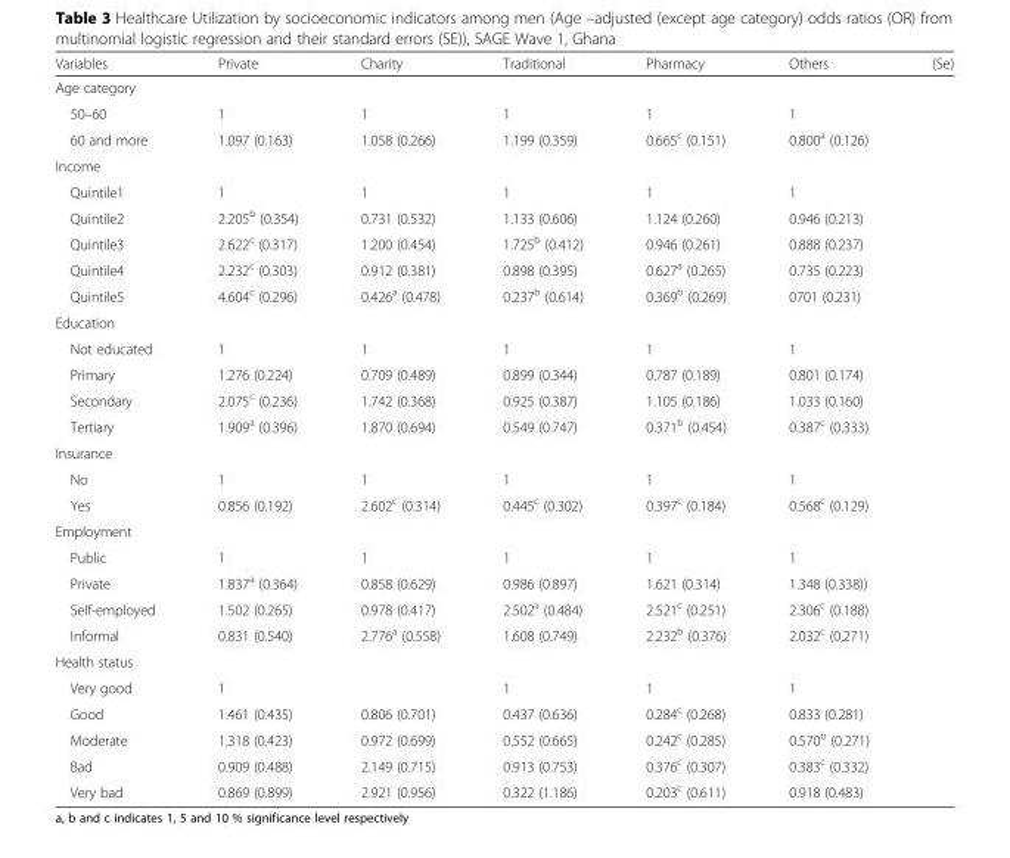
<table><thead><tr><td>Variables</td><td>Private</td><td>Charity</td><td>Traditional</td><td>Pharmacy</td><td>Others</td><td>(Se)</td></tr></thead><tbody><tr><td colspan="7">Age category</td></tr><tr><td>50–60</td><td>1</td><td>1</td><td>1</td><td>1</td><td>1</td><td></td></tr><tr><td>60 and more</td><td>1.097 (0.163)</td><td>1.058 (0.266)</td><td>1.199 (0.359)</td><td>0.665<sup>c</sup> (0.151)</td><td>0.800<sup>a</sup> (0.126)</td><td></td></tr><tr><td colspan="7">Income</td></tr><tr><td>Quintile1</td><td>1</td><td>1</td><td>1</td><td>1</td><td>1</td><td></td></tr><tr><td>Quintile2</td><td>2.205<sup>b</sup> (0.354)</td><td>0.731 (0.532)</td><td>1.133 (0.606)</td><td>1.124 (0.260)</td><td>0.946 (0.213)</td><td></td></tr><tr><td>Quintile3</td><td>2.622<sup>c</sup> (0.317)</td><td>1.200 (0.454)</td><td>1.725<sup>b</sup> (0.412)</td><td>0.946 (0.261)</td><td>0.888 (0.237)</td><td></td></tr><tr><td>Quintile4</td><td>2.232<sup>c</sup> (0.303)</td><td>0.912 (0.381)</td><td>0.898 (0.395)</td><td>0.627<sup>a</sup> (0.265)</td><td>0.735 (0.223)</td><td></td></tr><tr><td>Quintile5</td><td>4.604<sup>c</sup> (0.296)</td><td>0.426<sup>a</sup> (0.478)</td><td>0.237<sup>b</sup> (0.614)</td><td>0.369<sup>b</sup> (0.269)</td><td>0701 (0.231)</td><td></td></tr><tr><td colspan="7">Education</td></tr><tr><td>Not educated</td><td>1</td><td>1</td><td>1</td><td>1</td><td>1</td><td></td></tr><tr><td>Primary</td><td>1.276 (0.224)</td><td>0.709 (0.489)</td><td>0.899 (0.344)</td><td>0.787 (0.189)</td><td>0.801 (0.174)</td><td></td></tr><tr><td>Secondary</td><td>2.075<sup>c</sup> (0.236)</td><td>1.742 (0.368)</td><td>0.925 (0.387)</td><td>1.105 (0.186)</td><td>1.033 (0.160)</td><td></td></tr><tr><td>Tertiary</td><td>1.909<sup>a</sup> (0.396)</td><td>1.870 (0.694)</td><td>0.549 (0.747)</td><td>0.371<sup>b</sup> (0.454)</td><td>0.387<sup>c</sup> (0.333)</td><td></td></tr><tr><td colspan="7">Insurance</td></tr><tr><td>No</td><td>1</td><td>1</td><td>1</td><td>1</td><td>1</td><td></td></tr><tr><td>Yes</td><td>0.856 (0.192)</td><td>2.602<sup>c</sup> (0.314)</td><td>0.445<sup>c</sup> (0.302)</td><td>0.397<sup>c</sup> (0.184)</td><td>0.568<sup>c</sup> (0.129)</td><td></td></tr><tr><td colspan="7">Employment</td></tr><tr><td>Public</td><td>1</td><td>1</td><td>1</td><td>1</td><td>1</td><td></td></tr><tr><td>Private</td><td>1.837<sup>a</sup> (0.364)</td><td>0.858 (0.629)</td><td>0.986 (0.897)</td><td>1.621 (0.314)</td><td>1.348 (0.338))</td><td></td></tr><tr><td>Self-employed</td><td>1.502 (0.265)</td><td>0.978 (0.417)</td><td>2.502<sup>a</sup> (0.484)</td><td>2.521<sup>c</sup> (0.251)</td><td>2.306<sup>c</sup> (0.188)</td><td></td></tr><tr><td>Informal</td><td>0.831 (0.540)</td><td>2.776<sup>a</sup> (0.558)</td><td>1.608 (0.749)</td><td>2.232<sup>b</sup> (0.376)</td><td>2.032<sup>c</sup> (0.271)</td><td></td></tr><tr><td colspan="7">Health status</td></tr><tr><td>Very good</td><td>1</td><td></td><td>1</td><td>1</td><td>1</td><td></td></tr><tr><td>Good</td><td>1.461 (0.435)</td><td>0.806 (0.701)</td><td>0.437 (0.636)</td><td>0.284<sup>c</sup> (0.268)</td><td>0.833 (0.281)</td><td></td></tr><tr><td>Moderate</td><td>1.318 (0.423)</td><td>0.972 (0.699)</td><td>0.552 (0.665)</td><td>0.242<sup>c</sup> (0.285)</td><td>0.570<sup>b</sup> (0.271)</td><td></td></tr><tr><td>Bad</td><td>0.909 (0.488)</td><td>2.149 (0.715)</td><td>0.913 (0.753)</td><td>0.376<sup>c</sup> (0.307)</td><td>0.383<sup>c</sup> (0.332)</td><td></td></tr><tr><td>Very bad</td><td>0.869 (0.899)</td><td>2.921 (0.956)</td><td>0.322 (1.186)</td><td>0.203<sup>c</sup> (0.611)</td><td>0.918 (0.483)</td><td></td></tr></tbody></table>